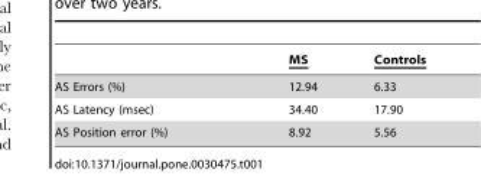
<table><thead><tr><td></td><td>MS</td><td>Controls</td></tr></thead><tbody><tr><td>AS Errors (%)</td><td>12.94</td><td>6.33</td></tr><tr><td>AS Latency (msec)</td><td>34.40</td><td>17.90</td></tr><tr><td>AS Position error (%)</td><td>8.92</td><td>5.56</td></tr></tbody></table>